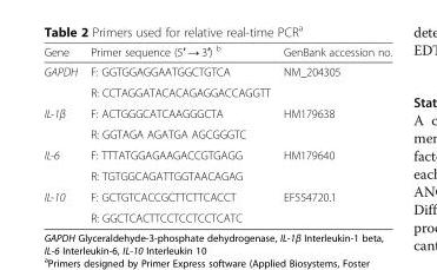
<table><thead><tr><td>Gene</td><td>Primer sequence (5′ → 3′) <sup>b</sup></td><td>GenBank accession no.</td></tr></thead><tbody><tr><td rowspan="2">GAPDH</td><td>F: GGTGGAGGAATGGCTGTCA</td><td rowspan="2">NM_204305</td></tr><tr><td>R: CCTAGGATACACAGAGGACCAGGTT</td></tr><tr><td rowspan="2">IL-1β</td><td>F: ACTGGGCATCAAGGGCTA</td><td rowspan="2">HM179638</td></tr><tr><td>R: GGTAGA AGATGA AGCGGGTC</td></tr><tr><td rowspan="2">IL-6</td><td>F: TTTATGGAGAAGACCGTGAGG</td><td rowspan="2">HM179640</td></tr><tr><td>R: TGTGGCAGATTGGTAACAGAG</td></tr><tr><td rowspan="2">IL-10</td><td>F: GCTGTCACCGCTTCTTCACCT</td><td rowspan="2">EF554720.1</td></tr><tr><td>R: GGCTCACTTCCTCCTCCTCATC</td></tr></tbody></table>